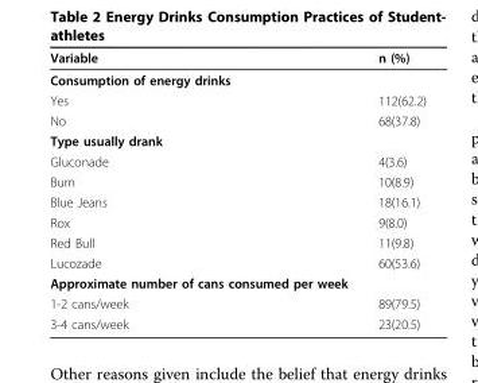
<table><thead><tr><td>Variable</td><td>n (%)</td></tr></thead><tbody><tr><td colspan="2">Consumption of energy drinks</td></tr><tr><td>Yes</td><td>112(62.2)</td></tr><tr><td>No</td><td>68(37.8)</td></tr><tr><td colspan="2">Type usually drank</td></tr><tr><td>Gluconade</td><td>4(3.6)</td></tr><tr><td>Burn</td><td>10(8.9)</td></tr><tr><td>Blue Jeans</td><td>18(16.1)</td></tr><tr><td>Rox</td><td>9(8.0)</td></tr><tr><td>Red Bull</td><td>11(9.8)</td></tr><tr><td>Lucozade</td><td>60(53.6)</td></tr><tr><td colspan="2">Approximate number of cans consumed per week</td></tr><tr><td>1-2 cans/week</td><td>89(79.5)</td></tr><tr><td>3-4 cans/week</td><td>23(20.5)</td></tr></tbody></table>